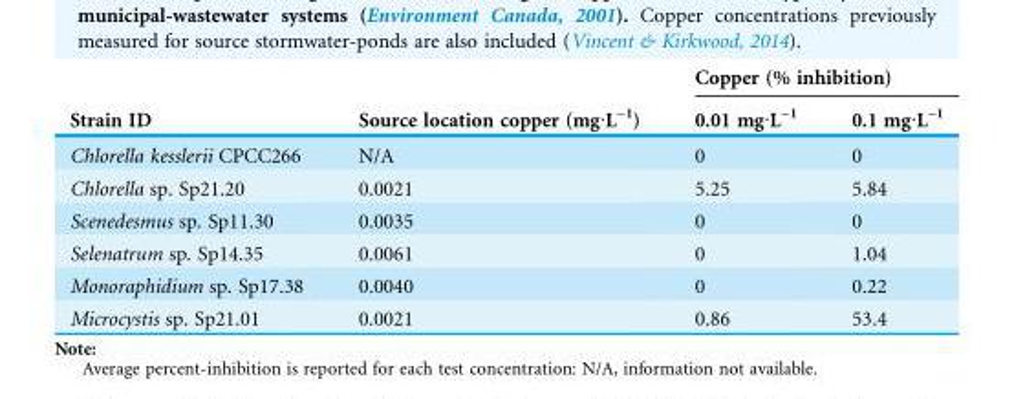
<table><thead><tr><td rowspan="2">Strain ID</td><td rowspan="2">Source location copper (mg·L<sup>-1</sup>)</td><td colspan="2">Copper (% inhibition)</td></tr><tr><td>0.01 mg·L<sup>-1</sup></td><td>0.1 mg·L<sup>-1</sup></td></tr></thead><tbody><tr><td>Chlorella kesslerii CPCC266</td><td>N/A</td><td>0</td><td>0</td></tr><tr><td>Chlorella sp. Sp21.20</td><td>0.0021</td><td>5.25</td><td>5.84</td></tr><tr><td>Scenedesmus sp. Sp11.30</td><td>0.0035</td><td>0</td><td>0</td></tr><tr><td>Selenatrum sp. Sp14.35</td><td>0.0061</td><td>0</td><td>1.04</td></tr><tr><td>Monoraphidium sp. Sp17.38</td><td>0.0040</td><td>0</td><td>0.22</td></tr><tr><td>Microcystis sp. Sp21.01</td><td>0.0021</td><td>0.86</td><td>53.4</td></tr></tbody></table>